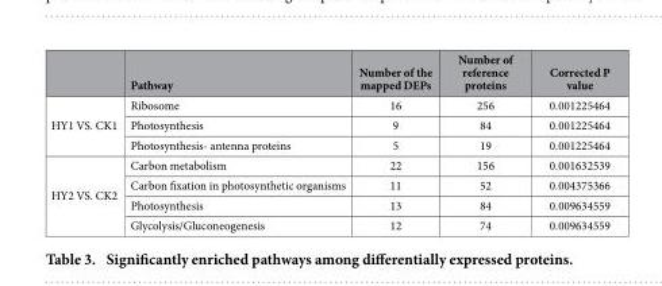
<table><thead><tr><td></td><td>Pathway</td><td>Number of the mapped DEPs</td><td>Number of reference proteins</td><td>Corrected P value</td></tr></thead><tbody><tr><td rowspan="3">HY1 VS. CK1</td><td>Ribosome</td><td>16</td><td>256</td><td>0.001225464</td></tr><tr><td>Photosynthesis</td><td>9</td><td>84</td><td>0.001225464</td></tr><tr><td>Photosynthesis- antenna proteins</td><td>5</td><td>19</td><td>0.001225464</td></tr><tr><td rowspan="4">HY2 VS. CK2</td><td>Carbon metabolism</td><td>22</td><td>156</td><td>0.001632539</td></tr><tr><td>Carbon fixation in photosynthetic organisms</td><td>11</td><td>52</td><td>0.004375366</td></tr><tr><td>Photosynthesis</td><td>13</td><td>84</td><td>0.009634559</td></tr><tr><td>Glycolysis/Gluconeogenesis</td><td>12</td><td>74</td><td>0.009634559</td></tr></tbody></table>